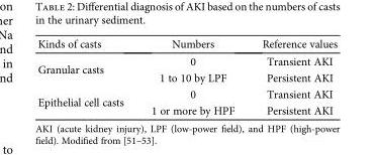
<table><thead><tr><td>Kinds of casts</td><td>Numbers</td><td>Reference values</td></tr></thead><tbody><tr><td rowspan="2">Granular casts</td><td>0</td><td>Transient AKI</td></tr><tr><td>1 to 10 by LPF</td><td>Persistent AKI</td></tr><tr><td rowspan="2">Epithelial cell casts</td><td>0</td><td>Transient AKI</td></tr><tr><td>1 or more by HPF</td><td>Persistent AKI</td></tr></tbody></table>